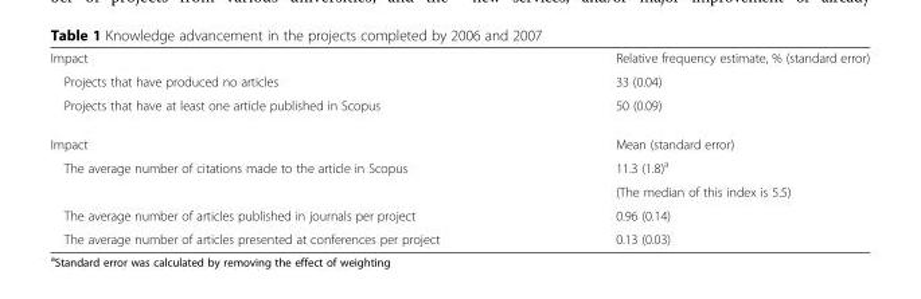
<table><tbody><tr><td>Impact</td><td>Relative frequency estimate, % (standard error)</td></tr><tr><td>Projects that have produced no articles</td><td>33 (0.04)</td></tr><tr><td>Projects that have at least one article published in Scopus</td><td>50 (0.09)</td></tr><tr><td>Impact</td><td>Mean (standard error)</td></tr><tr><td rowspan="2">The average number of citations made to the article in Scopus</td><td>11.3 (1.8)<sup>a</sup></td></tr><tr><td>(The median of this index is 5.5)</td></tr><tr><td>The average number of articles published in journals per project</td><td>0.96 (0.14)</td></tr><tr><td>The average number of articles presented at conferences per project</td><td>0.13 (0.03)</td></tr></tbody></table>